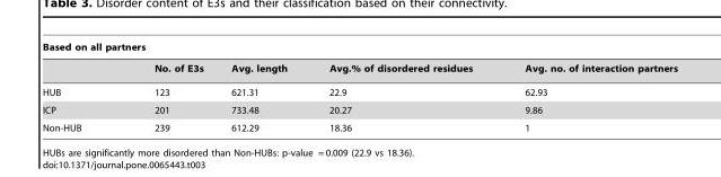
<table><thead><tr><td colspan="5">Based on all partners</td></tr><tr><td></td><td>No. of E3s</td><td>Avg. length</td><td>Avg.% of disordered residues</td><td>Avg. no. of interaction partners</td></tr></thead><tbody><tr><td>HUB</td><td>123</td><td>621.31</td><td>22.9</td><td>62.93</td></tr><tr><td>ICP</td><td>201</td><td>733.48</td><td>20.27</td><td>9.86</td></tr><tr><td>Non-HUB</td><td>239</td><td>612.29</td><td>18.36</td><td>1</td></tr></tbody></table>